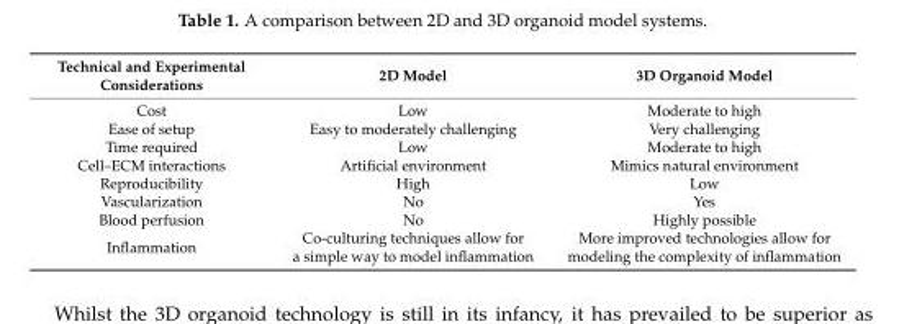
<table><thead><tr><td>Technical and Experimental Considerations</td><td>2D Model</td><td>3D Organoid Model</td></tr></thead><tbody><tr><td>Cost</td><td>Low</td><td>Moderate to high</td></tr><tr><td>Ease of setup</td><td>Easy to moderately challenging</td><td>Very challenging</td></tr><tr><td>Time required</td><td>Low</td><td>Moderate to high</td></tr><tr><td>Cell–ECM interactions</td><td>Artificial environment</td><td>Mimics natural environment</td></tr><tr><td>Reproducibility</td><td>High</td><td>Low</td></tr><tr><td>Vascularization</td><td>No</td><td>Yes</td></tr><tr><td>Blood perfusion</td><td>No</td><td>Highly possible</td></tr><tr><td>Inflammation</td><td>Co-culturing techniques allow for a simple way to model inflammation</td><td>More improved technologies allow for modeling the complexity of inflammation</td></tr></tbody></table>